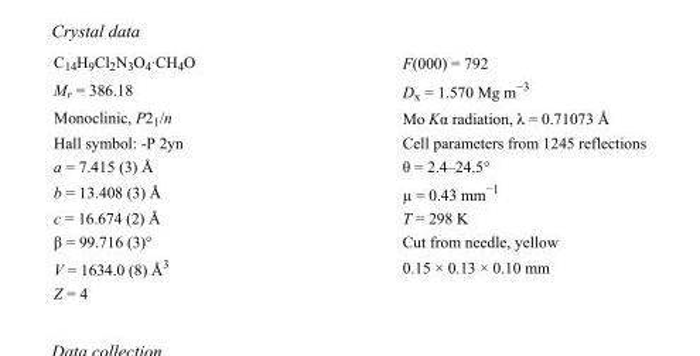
<table><tbody><tr><td>C<sub>14</sub>H<sub>9</sub>Cl<sub>2</sub>N<sub>3</sub>O<sub>4</sub>·CH<sub>4</sub>O</td><td>F(000) = 792</td></tr><tr><td>M<sub>r</sub> = 386.18</td><td>D<sub>x</sub> = 1.570 Mg m<sup>−3</sup></td></tr><tr><td>Monoclinic, P2<sub>1</sub>/n</td><td>Mo Kα radiation, λ = 0.71073 Å</td></tr><tr><td>Hall symbol: -P 2yn</td><td>Cell parameters from 1245 reflections</td></tr><tr><td>a = 7.415 (3) Å</td><td>θ = 2.4–24.5°</td></tr><tr><td>b = 13.408 (3) Å</td><td>µ = 0.43 mm<sup>−1</sup></td></tr><tr><td>c = 16.674 (2) Å</td><td>T = 298 K</td></tr><tr><td>β = 99.716 (3)°</td><td>Cut from needle, yellow</td></tr><tr><td>V = 1634.0 (8) Å<sup>3</sup></td><td>0.15 × 0.13 × 0.10 mm</td></tr><tr><td>Z = 4</td><td></td></tr></tbody></table>